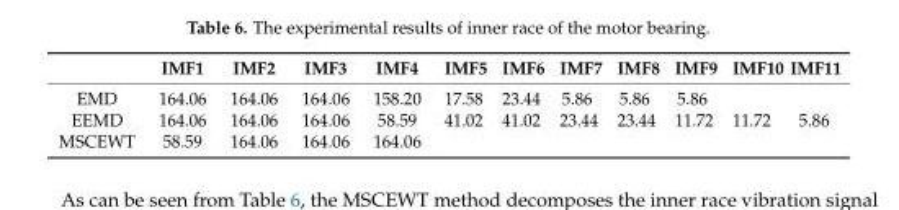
<table><thead><tr><td></td><td>IMF1</td><td>IMF2</td><td>IMF3</td><td>IMF4</td><td>IMF5</td><td>IMF6</td><td>IMF7</td><td>IMF8</td><td>IMF9</td><td>IMF10</td><td>IMF11</td></tr></thead><tbody><tr><td>EMD</td><td>164.06</td><td>164.06</td><td>164.06</td><td>158.20</td><td>17.58</td><td>23.44</td><td>5.86</td><td>5.86</td><td>5.86</td><td></td><td></td></tr><tr><td>EEMD</td><td>164.06</td><td>164.06</td><td>164.06</td><td>58.59</td><td>41.02</td><td>41.02</td><td>23.44</td><td>23.44</td><td>11.72</td><td>11.72</td><td>5.86</td></tr><tr><td>MSCEWT</td><td>58.59</td><td>164.06</td><td>164.06</td><td>164.06</td><td></td><td></td><td></td><td></td><td></td><td></td><td></td></tr></tbody></table>